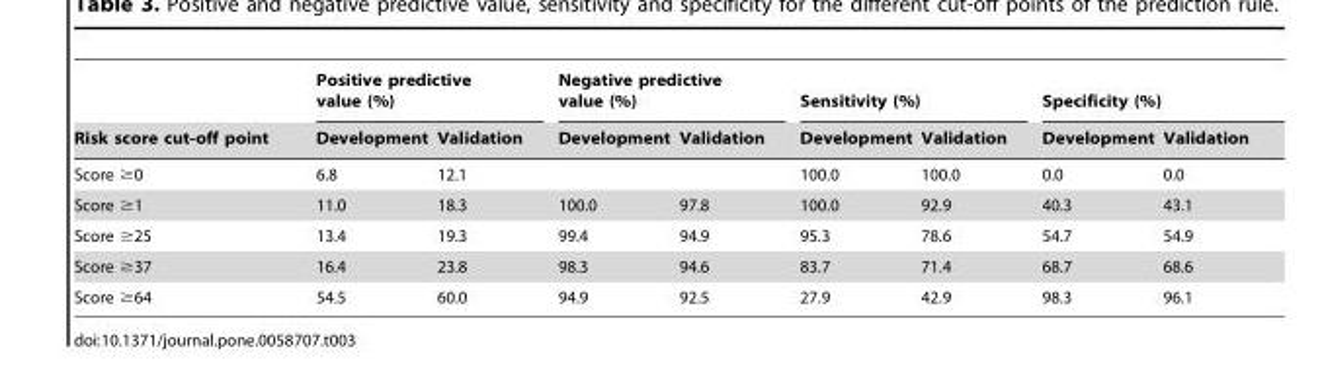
<table><thead><tr><td rowspan="2">Risk score cut-off point</td><td colspan="2">Positive predictive value (%)</td><td colspan="2">Negative predictive value (%)</td><td colspan="2">Sensitivity (%)</td><td colspan="2">Specificity (%)</td></tr><tr><td>Development</td><td>Validation</td><td>Development</td><td>Validation</td><td>Development</td><td>Validation</td><td>Development</td><td>Validation</td></tr></thead><tbody><tr><td>Score ≥0</td><td>6.8</td><td>12.1</td><td></td><td></td><td>100.0</td><td>100.0</td><td>0.0</td><td>0.0</td></tr><tr><td>Score ≥1</td><td>11.0</td><td>18.3</td><td>100.0</td><td>97.8</td><td>100.0</td><td>92.9</td><td>40.3</td><td>43.1</td></tr><tr><td>Score ≥25</td><td>13.4</td><td>19.3</td><td>99.4</td><td>94.9</td><td>95.3</td><td>78.6</td><td>54.7</td><td>54.9</td></tr><tr><td>Score ≥37</td><td>16.4</td><td>23.8</td><td>98.3</td><td>94.6</td><td>83.7</td><td>71.4</td><td>68.7</td><td>68.6</td></tr><tr><td>Score ≥64</td><td>54.5</td><td>60.0</td><td>94.9</td><td>92.5</td><td>27.9</td><td>42.9</td><td>98.3</td><td>96.1</td></tr></tbody></table>